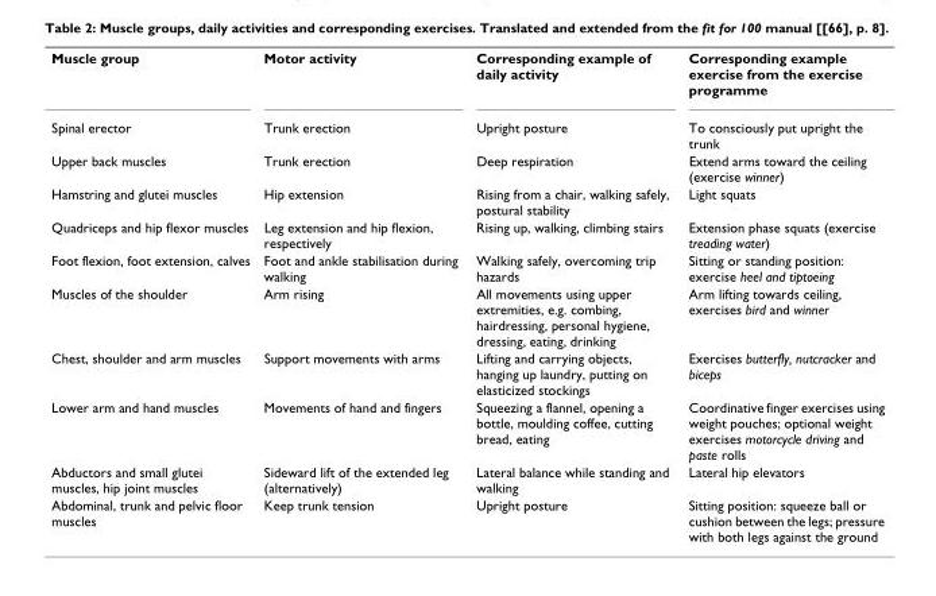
<table><tbody><tr><td>Muscle group</td><td>Motor activity</td><td>Corresponding example of daily activity</td><td>Corresponding example exercise from the exercise programme</td></tr><tr><td>Spinal erector</td><td>Trunk erection</td><td>Upright posture</td><td>To consciously put upright the trunk</td></tr><tr><td>Upper back muscles</td><td>Trunk erection</td><td>Deep respiration</td><td>Extend arms toward the ceiling (exercise winner)</td></tr><tr><td>Hamstring and glutei muscles</td><td>Hip extension</td><td>Rising from a chair, walking safely, postural stability</td><td>Light squats</td></tr><tr><td>Quadriceps and hip flexor muscles</td><td>Leg extension and hip flexion, respectively</td><td>Rising up, walking, climbing stairs</td><td>Extension phase squats (exercise treading water)</td></tr><tr><td>Foot flexion, foot extension, calves</td><td>Foot and ankle stabilisation during walking</td><td>Walking safely, overcoming trip hazards</td><td>Sitting or standing position: exercise heel and tiptoeing</td></tr><tr><td>Muscles of the shoulder</td><td>Arm rising</td><td>All movements using upper extremities, e.g. combing, hairdressing, personal hygiene, dressing, eating, drinking</td><td>Arm lifting towards ceiling, exercises bird and winner</td></tr><tr><td>Chest, shoulder and arm muscles</td><td>Support movements with arms</td><td>Lifting and carrying objects, hanging up laundry, putting on elasticized stockings</td><td>Exercises butterfly, nutcracker and biceps</td></tr><tr><td>Lower arm and hand muscles</td><td>Movements of hand and fingers</td><td>Squeezing a flannel, opening a bottle, moulding coffee, cutting bread, eating</td><td>Coordinative finger exercises using weight pouches; optional weight exercises motorcycle driving and paste rolls</td></tr><tr><td>Abductors and small glutei muscles, hip joint muscles</td><td>Sideward lift of the extended leg (alternatively)</td><td>Lateral balance while standing and walking</td><td>Lateral hip elevators</td></tr><tr><td>Abdominal, trunk and pelvic floor muscles</td><td>Keep trunk tension</td><td>Upright posture</td><td>Sitting position: squeeze ball or cushion between the legs; pressure with both legs against the ground</td></tr></tbody></table>